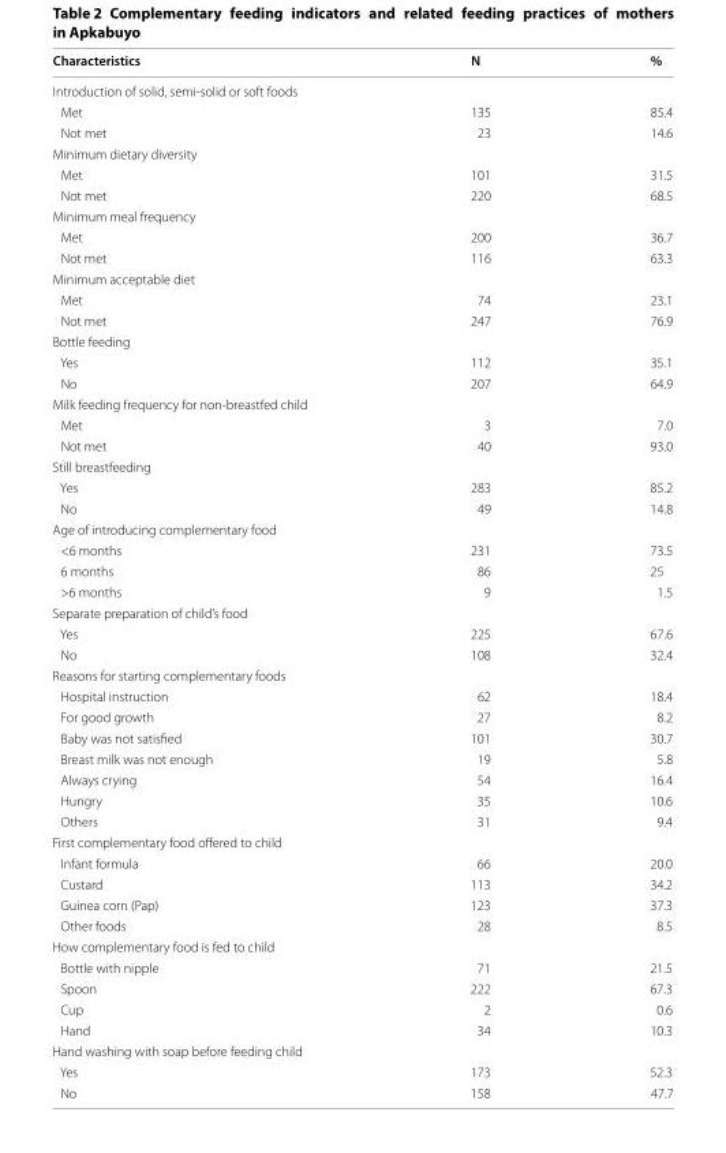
<table><thead><tr><td>Characteristics</td><td>N</td><td>%</td></tr></thead><tbody><tr><td colspan="3">Introduction of solid, semi-solid or soft foods</td></tr><tr><td>Met</td><td>135</td><td>85.4</td></tr><tr><td>Not met</td><td>23</td><td>14.6</td></tr><tr><td colspan="3">Minimum dietary diversity</td></tr><tr><td>Met</td><td>101</td><td>31.5</td></tr><tr><td>Not met</td><td>220</td><td>68.5</td></tr><tr><td colspan="3">Minimum meal frequency</td></tr><tr><td>Met</td><td>200</td><td>36.7</td></tr><tr><td>Not met</td><td>116</td><td>63.3</td></tr><tr><td colspan="3">Minimum acceptable diet</td></tr><tr><td>Met</td><td>74</td><td>23.1</td></tr><tr><td>Not met</td><td>247</td><td>76.9</td></tr><tr><td colspan="3">Bottle feeding</td></tr><tr><td>Yes</td><td>112</td><td>35.1</td></tr><tr><td>No</td><td>207</td><td>64.9</td></tr><tr><td colspan="3">Milk feeding frequency for non-breastfed child</td></tr><tr><td>Met</td><td>3</td><td>7.0</td></tr><tr><td>Not met</td><td>40</td><td>93.0</td></tr><tr><td colspan="3">Still breastfeeding</td></tr><tr><td>Yes</td><td>283</td><td>85.2</td></tr><tr><td>No</td><td>49</td><td>14.8</td></tr><tr><td colspan="3">Age of introducing complementary food</td></tr><tr><td>&lt;6 months</td><td>231</td><td>73.5</td></tr><tr><td>6 months</td><td>86</td><td>25</td></tr><tr><td>&gt;6 months</td><td>9</td><td>1.5</td></tr><tr><td colspan="3">Separate preparation of child’s food</td></tr><tr><td>Yes</td><td>225</td><td>67.6</td></tr><tr><td>No</td><td>108</td><td>32.4</td></tr><tr><td colspan="3">Reasons for starting complementary foods</td></tr><tr><td>Hospital instruction</td><td>62</td><td>18.4</td></tr><tr><td>For good growth</td><td>27</td><td>8.2</td></tr><tr><td>Baby was not satisfied</td><td>101</td><td>30.7</td></tr><tr><td>Breast milk was not enough</td><td>19</td><td>5.8</td></tr><tr><td>Always crying</td><td>54</td><td>16.4</td></tr><tr><td>Hungry</td><td>35</td><td>10.6</td></tr><tr><td>Others</td><td>31</td><td>9.4</td></tr><tr><td colspan="3">First complementary food offered to child</td></tr><tr><td>Infant formula</td><td>66</td><td>20.0</td></tr><tr><td>Custard</td><td>113</td><td>34.2</td></tr><tr><td>Guinea corn (Pap)</td><td>123</td><td>37.3</td></tr><tr><td>Other foods</td><td>28</td><td>8.5</td></tr><tr><td colspan="3">How complementary food is fed to child</td></tr><tr><td>Bottle with nipple</td><td>71</td><td>21.5</td></tr><tr><td>Spoon</td><td>222</td><td>67.3</td></tr><tr><td>Cup</td><td>2</td><td>0.6</td></tr><tr><td>Hand</td><td>34</td><td>10.3</td></tr><tr><td colspan="3">Hand washing with soap before feeding child</td></tr><tr><td>Yes</td><td>173</td><td>52.3</td></tr><tr><td>No</td><td>158</td><td>47.7</td></tr></tbody></table>